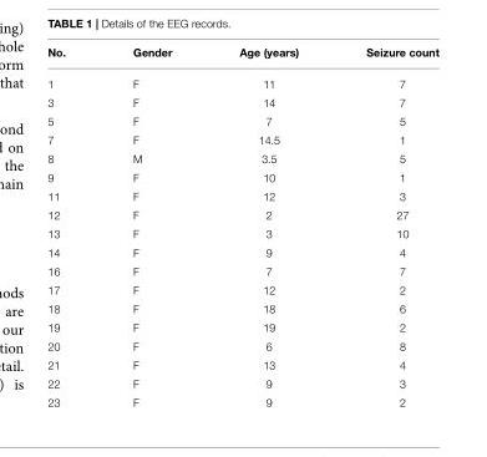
<table><thead><tr><td>No.</td><td>Gender</td><td>Age (years)</td><td>Seizure count</td></tr></thead><tbody><tr><td>1</td><td>F</td><td>11</td><td>7</td></tr><tr><td>3</td><td>F</td><td>14</td><td>7</td></tr><tr><td>5</td><td>F</td><td>7</td><td>5</td></tr><tr><td>7</td><td>F</td><td>14.5</td><td>1</td></tr><tr><td>8</td><td>M</td><td>3.5</td><td>5</td></tr><tr><td>9</td><td>F</td><td>10</td><td>1</td></tr><tr><td>11</td><td>F</td><td>12</td><td>3</td></tr><tr><td>12</td><td>F</td><td>2</td><td>27</td></tr><tr><td>13</td><td>F</td><td>3</td><td>10</td></tr><tr><td>14</td><td>F</td><td>9</td><td>4</td></tr><tr><td>16</td><td>F</td><td>7</td><td>7</td></tr><tr><td>17</td><td>F</td><td>12</td><td>2</td></tr><tr><td>18</td><td>F</td><td>18</td><td>6</td></tr><tr><td>19</td><td>F</td><td>19</td><td>2</td></tr><tr><td>20</td><td>F</td><td>6</td><td>8</td></tr><tr><td>21</td><td>F</td><td>13</td><td>4</td></tr><tr><td>22</td><td>F</td><td>9</td><td>3</td></tr><tr><td>23</td><td>F</td><td>9</td><td>2</td></tr></tbody></table>